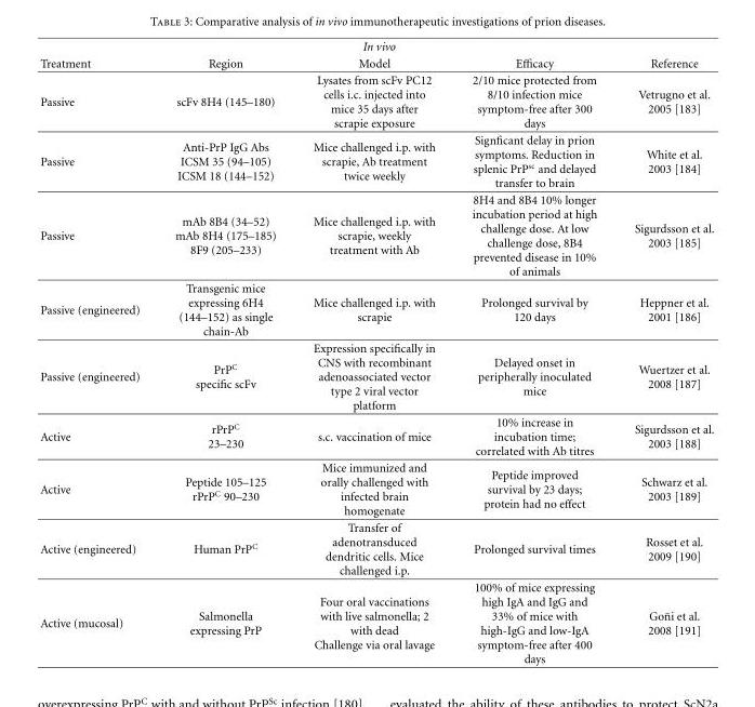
<table><thead><tr><td colspan="5">In vivo</td></tr><tr><td>Treatment</td><td>Region</td><td>Model</td><td>Efficacy</td><td>Reference</td></tr></thead><tbody><tr><td>Passive</td><td>scFv 8H4 (145–180)</td><td>Lysates from scFv PC12 cells i.c. injected into mice 35 days after scrapie exposure</td><td>2/10 mice protected from 8/10 infection mice symptom-free after 300 days</td><td>Vetrugno et al. 2005 [183]</td></tr><tr><td>Passive</td><td>Anti-PrP IgG Abs ICSM 35 (94–105) ICSM 18 (144–152)</td><td>Mice challenged i.p. with scrapie, Ab treatment twice weekly</td><td>Signficant delay in prion symptoms. Reduction in splenic PrP<sup>sc</sup> and delayed transfer to brain</td><td>White et al. 2003 [184]</td></tr><tr><td>Passive</td><td>mAb 8B4 (34–52) mAb 8H4 (175–185) 8F9 (205–233)</td><td>Mice challenged i.p. with scrapie, weekly treatment with Ab</td><td>8H4 and 8B4 10% longer incubation period at high challenge dose. At low challenge dose, 8B4 prevented disease in 10% of animals</td><td>Sigurdsson et al. 2003 [185]</td></tr><tr><td>Passive (engineered)</td><td>Transgenic mice expressing 6H4 (144–152) as single chain-Ab</td><td>Mice challenged i.p. with scrapie</td><td>Prolonged survival by 120 days</td><td>Heppner et al. 2001 [186]</td></tr><tr><td>Passive (engineered)</td><td>PrP<sup>C</sup> specific scFv</td><td>Expression specifically in CNS with recombinant adenoassociated vector type 2 viral vector platform</td><td>Delayed onset in peripherally inoculated mice</td><td>Wuertzer et al. 2008 [187]</td></tr><tr><td>Active</td><td>rPrP<sup>C</sup> 23–230</td><td>s.c. vaccination of mice</td><td>10% increase in incubation time; correlated with Ab titres</td><td>Sigurdsson et al. 2003 [188]</td></tr><tr><td>Active</td><td>Peptide 105–125 rPrP<sup>C</sup> 90–230</td><td>Mice immunized and orally challenged with infected brain homogenate</td><td>Peptide improved survival by 23 days; protein had no effect</td><td>Schwarz et al. 2003 [189]</td></tr><tr><td>Active (engineered)</td><td>Human PrP<sup>C</sup></td><td>Transfer of adenotransduced dendritic cells. Mice challenged i.p.</td><td>Prolonged survival times</td><td>Rosset et al. 2009 [190]</td></tr><tr><td>Active (mucosal)</td><td>Salmonella expressing PrP</td><td>Four oral vaccinations with live salmonella; 2 with dead Challenge via oral lavage</td><td>100% of mice expressing high IgA and IgG and 33% of mice with high-IgG and low-IgA symptom-free after 400 days</td><td>Go˜ni et al. 2008 [191]</td></tr></tbody></table>